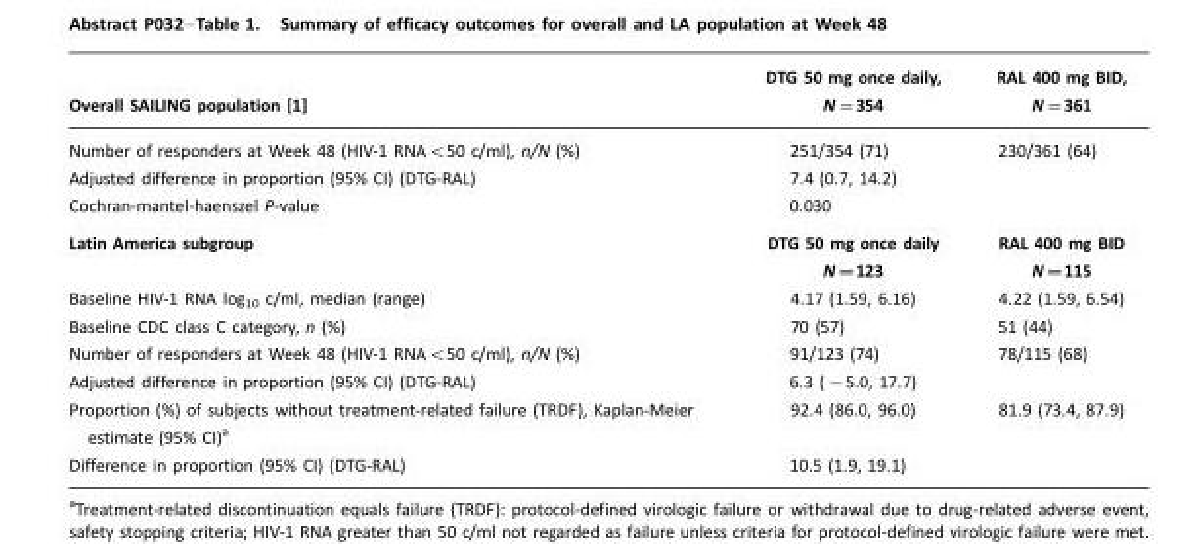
<table><thead><tr><td>Overall SAILING population [1]</td><td>DTG 50 mg once daily, N=354</td><td>RAL 400 mg BID, N=361</td></tr></thead><tbody><tr><td>Number of responders at Week 48 (HIV-1 RNA&lt;50 c/ml), n/N (%)</td><td>251/354 (71)</td><td>230/361 (64)</td></tr><tr><td>Adjusted difference in proportion (95% CI) (DTG-RAL)</td><td>7.4 (0.7, 14.2)</td><td></td></tr><tr><td>Cochran-mantel-haenszel P-value</td><td>0.030</td><td></td></tr><tr><td>Latin America subgroup</td><td>DTG 50 mg once daily N=123</td><td>RAL 400 mg BID N=115</td></tr><tr><td>Baseline HIV-1 RNA log10 c/ml, median (range)</td><td>4.17 (1.59, 6.16)</td><td>4.22 (1.59, 6.54)</td></tr><tr><td>Baseline CDC class C category, n (%)</td><td>70 (57)</td><td>51 (44)</td></tr><tr><td>Number of responders at Week 48 (HIV-1 RNA&lt;50 c/ml), n/N (%)</td><td>91/123 (74)</td><td>78/115 (68)</td></tr><tr><td>Adjusted difference in proportion (95% CI) (DTG-RAL)</td><td>6.3 (−5.0, 17.7)</td><td></td></tr><tr><td>Proportion (%) of subjects without treatment-related failure (TRDF), Kaplan-Meier estimate (95% CI)a</td><td>92.4 (86.0, 96.0)</td><td>81.9 (73.4, 87.9)</td></tr><tr><td>Difference in proportion (95% CI) (DTG-RAL)</td><td>10.5 (1.9, 19.1)</td><td></td></tr></tbody></table>